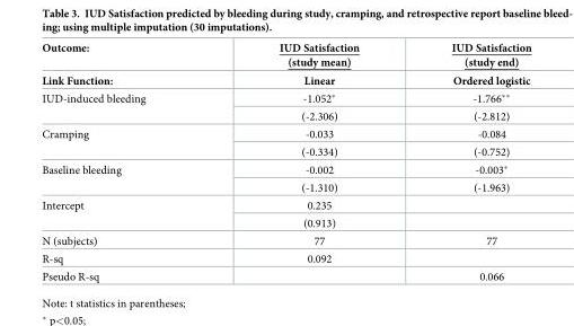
<table><thead><tr><td rowspan="2">Outcome: Link Function:</td><td rowspan="2">IUD Satisfaction (study mean) Linear</td><td rowspan="2">IUD Satisfaction (study end) Ordered logistic</td></tr><tr></tr></thead><tbody><tr><td rowspan="2">IUD-induced bleeding</td><td>-1.052*</td><td>-1.766**</td></tr><tr><td>(-2.306)</td><td>(-2.812)</td></tr><tr><td rowspan="2">Cramping</td><td>-0.033</td><td>-0.084</td></tr><tr><td>(-0.334)</td><td>(-0.752)</td></tr><tr><td rowspan="2">Baseline bleeding</td><td>-0.002</td><td>-0.003*</td></tr><tr><td>(-1.310)</td><td>(-1.963)</td></tr><tr><td rowspan="2">Intercept</td><td>0.235</td><td></td></tr><tr><td>(0.913)</td><td></td></tr><tr><td>N (subjects)</td><td>77</td><td>77</td></tr><tr><td>R-sq</td><td>0.092</td><td></td></tr><tr><td>Pseudo R-sq</td><td></td><td>0.066</td></tr></tbody></table>